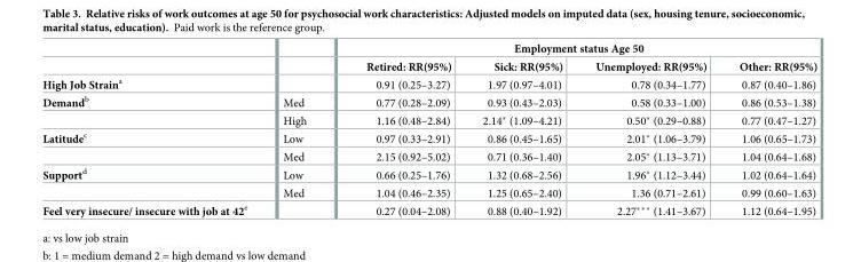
<table><thead><tr><td rowspan="2"></td><td rowspan="2"></td><td colspan="4">Employment status Age 50</td></tr><tr><td>Retired: RR(95%)</td><td>Sick: RR(95%)</td><td>Unemployed: RR(95%)</td><td>Other: RR(95%)</td></tr></thead><tbody><tr><td>High Job Strain<sup>a</sup></td><td></td><td>0.91 (0.25–3.27)</td><td>1.97 (0.97–4.01)</td><td>0.78 (0.34–1.77)</td><td>0.87 (0.40–1.86)</td></tr><tr><td rowspan="2">Demand<sup>b</sup></td><td>Med</td><td>0.77 (0.28–2.09)</td><td>0.93 (0.43–2.03)</td><td>0.58 (0.33–1.00)</td><td>0.86 (0.53–1.38)</td></tr><tr><td>High</td><td>1.16 (0.48–2.84)</td><td>2.14* (1.09–4.21)</td><td>0.50* (0.29–0.88)</td><td>0.77 (0.47–1.27)</td></tr><tr><td rowspan="2">Latitude<sup>c</sup></td><td>Low</td><td>0.97 (0.33–2.91)</td><td>0.86 (0.45–1.65)</td><td>2.01* (1.06–3.79)</td><td>1.06 (0.65–1.73)</td></tr><tr><td>Med</td><td>2.15 (0.92–5.02)</td><td>0.71 (0.36–1.40)</td><td>2.05* (1.13–3.71)</td><td>1.04 (0.64–1.68)</td></tr><tr><td rowspan="2">Support<sup>d</sup></td><td>Low</td><td>0.66 (0.25–1.76)</td><td>1.32 (0.68–2.56)</td><td>1.96* (1.12–3.44)</td><td>1.02 (0.64–1.64)</td></tr><tr><td>Med</td><td>1.04 (0.46–2.35)</td><td>1.25 (0.65–2.40)</td><td>1.36 (0.71–2.61)</td><td>0.99 (0.60–1.63)</td></tr><tr><td>Feel very insecure/ insecure with job at 42<sup>e</sup></td><td></td><td>0.27 (0.04–2.08)</td><td>0.88 (0.40–1.92)</td><td>2.27*** (1.41–3.67)</td><td>1.12 (0.64–1.95)</td></tr></tbody></table>